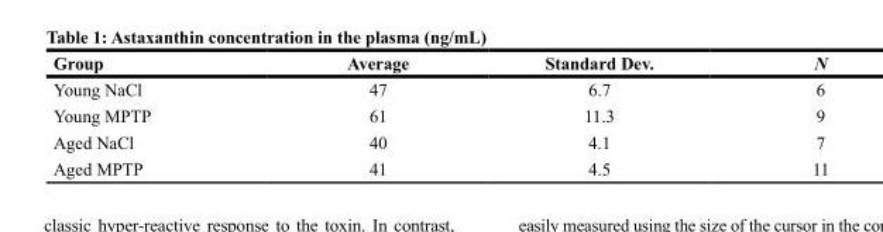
<table><thead><tr><td>Group</td><td>Average</td><td>Standard Dev.</td><td>N</td></tr></thead><tbody><tr><td>Young NaCl</td><td>47</td><td>6.7</td><td>6</td></tr><tr><td>Young MPTP</td><td>61</td><td>11.3</td><td>9</td></tr><tr><td>Aged NaCl</td><td>40</td><td>4.1</td><td>7</td></tr><tr><td>Aged MPTP</td><td>41</td><td>4.5</td><td>11</td></tr></tbody></table>